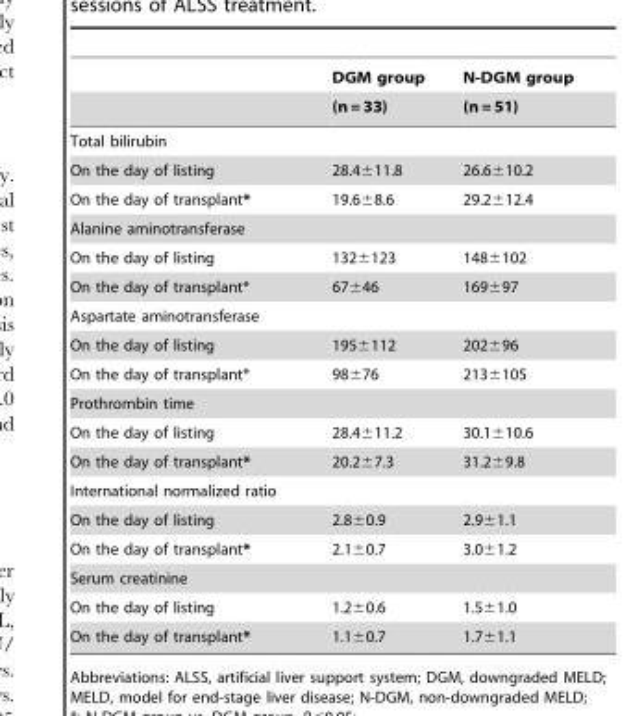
<table><thead><tr><td rowspan="2"></td><td rowspan="2">DGM group (n = 33)</td><td rowspan="2">N-DGM group (n = 51)</td></tr><tr></tr></thead><tbody><tr><td colspan="3">Total bilirubin</td></tr><tr><td>On the day of listing</td><td>28.4±11.8</td><td>26.6±10.2</td></tr><tr><td>On the day of transplant*</td><td>19.6±8.6</td><td>29.2±12.4</td></tr><tr><td colspan="3">Alanine aminotransferase</td></tr><tr><td>On the day of listing</td><td>132±123</td><td>148±102</td></tr><tr><td>On the day of transplant*</td><td>67±46</td><td>169±97</td></tr><tr><td colspan="3">Aspartate aminotransferase</td></tr><tr><td>On the day of listing</td><td>195±112</td><td>202±96</td></tr><tr><td>On the day of transplant*</td><td>98±76</td><td>213±105</td></tr><tr><td colspan="3">Prothrombin time</td></tr><tr><td>On the day of listing</td><td>28.4±11.2</td><td>30.1±10.6</td></tr><tr><td>On the day of transplant*</td><td>20.2±7.3</td><td>31.2±9.8</td></tr><tr><td colspan="3">International normalized ratio</td></tr><tr><td>On the day of listing</td><td>2.8±0.9</td><td>2.9±1.1</td></tr><tr><td>On the day of transplant*</td><td>2.1±0.7</td><td>3.0±1.2</td></tr><tr><td colspan="3">Serum creatinine</td></tr><tr><td>On the day of listing</td><td>1.2±0.6</td><td>1.5±1.0</td></tr><tr><td>On the day of transplant*</td><td>1.1±0.7</td><td>1.7±1.1</td></tr></tbody></table>